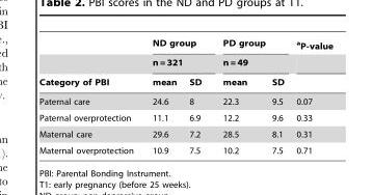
<table><thead><tr><td rowspan="3">Category of PBI</td><td rowspan="2" colspan="2">ND group n = 321</td><td rowspan="2" colspan="2">PD group n = 49</td><td rowspan="3"><sup>a</sup>P-value</td></tr><tr></tr><tr><td>mean</td><td>SD</td><td>mean</td><td>SD</td></tr></thead><tbody><tr><td>Paternal care</td><td>24.6</td><td>8</td><td>22.3</td><td>9.5</td><td>0.07</td></tr><tr><td>Paternal overprotection</td><td>11.1</td><td>6.9</td><td>12.2</td><td>9.6</td><td>0.33</td></tr><tr><td>Maternal care</td><td>29.6</td><td>7.2</td><td>28.5</td><td>8.1</td><td>0.31</td></tr><tr><td>Maternal overprotection</td><td>10.9</td><td>7.5</td><td>10.2</td><td>7.5</td><td>0.71</td></tr></tbody></table>